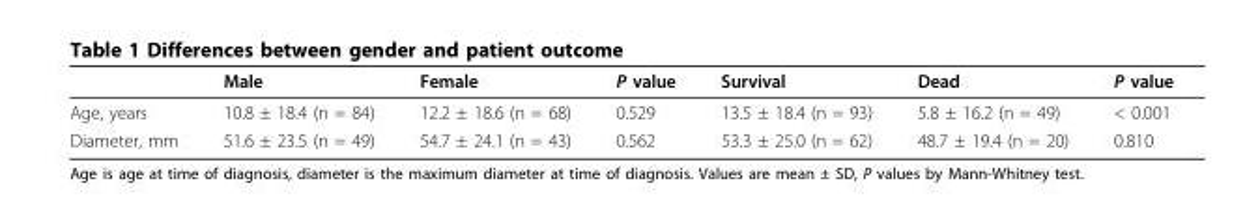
<table><thead><tr><td></td><td>Male</td><td>Female</td><td>P value</td><td>Survival</td><td>Dead</td><td>P value</td></tr></thead><tbody><tr><td>Age, years</td><td>10.8 ± 18.4 (n = 84)</td><td>12.2 ± 18.6 (n = 68)</td><td>0.529</td><td>13.5 ± 18.4 (n = 93)</td><td>5.8 ± 16.2 (n = 49)</td><td>&lt; 0.001</td></tr><tr><td>Diameter, mm</td><td>51.6 ± 23.5 (n = 49)</td><td>54.7 ± 24.1 (n = 43)</td><td>0.562</td><td>53.3 ± 25.0 (n = 62)</td><td>48.7 ± 19.4 (n = 20)</td><td>0.810</td></tr></tbody></table>